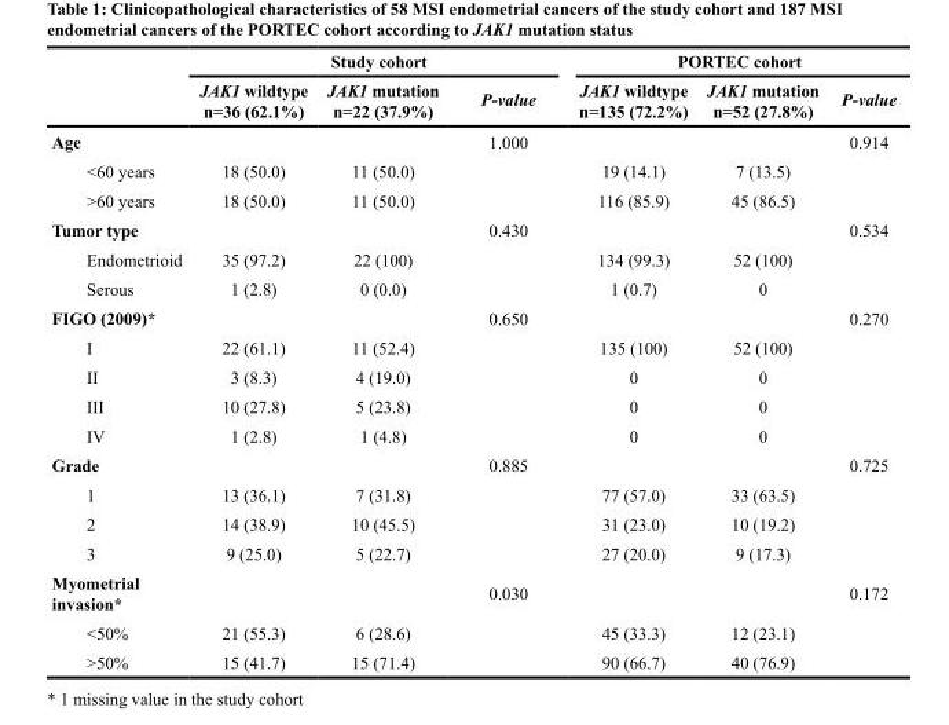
<table><thead><tr><td rowspan="2"></td><td colspan="3">Study cohort</td><td colspan="3">PORTEC cohort</td></tr><tr><td>JAK1 wildtype n=36 (62.1%)</td><td>JAK1 mutation n=22 (37.9%)</td><td>P-value</td><td>JAK1 wildtype n=135 (72.2%)</td><td>JAK1 mutation n=52 (27.8%)</td><td>P-value</td></tr></thead><tbody><tr><td>Age</td><td></td><td></td><td>1.000</td><td></td><td></td><td>0.914</td></tr><tr><td>&lt;60 years</td><td>18 (50.0)</td><td>11 (50.0)</td><td></td><td>19 (14.1)</td><td>7 (13.5)</td><td></td></tr><tr><td>&gt;60 years</td><td>18 (50.0)</td><td>11 (50.0)</td><td></td><td>116 (85.9)</td><td>45 (86.5)</td><td></td></tr><tr><td>Tumor type</td><td></td><td></td><td>0.430</td><td></td><td></td><td>0.534</td></tr><tr><td>Endometrioid</td><td>35 (97.2)</td><td>22 (100)</td><td></td><td>134 (99.3)</td><td>52 (100)</td><td></td></tr><tr><td>Serous</td><td>1 (2.8)</td><td>0 (0.0)</td><td></td><td>1 (0.7)</td><td>0</td><td></td></tr><tr><td>FIGO (2009)*</td><td></td><td></td><td>0.650</td><td></td><td></td><td>0.270</td></tr><tr><td>I</td><td>22 (61.1)</td><td>11 (52.4)</td><td></td><td>135 (100)</td><td>52 (100)</td><td></td></tr><tr><td>II</td><td>3 (8.3)</td><td>4 (19.0)</td><td></td><td>0</td><td>0</td><td></td></tr><tr><td>III</td><td>10 (27.8)</td><td>5 (23.8)</td><td></td><td>0</td><td>0</td><td></td></tr><tr><td>IV</td><td>1 (2.8)</td><td>1 (4.8)</td><td></td><td>0</td><td>0</td><td></td></tr><tr><td>Grade</td><td></td><td></td><td>0.885</td><td></td><td></td><td>0.725</td></tr><tr><td>1</td><td>13 (36.1)</td><td>7 (31.8)</td><td></td><td>77 (57.0)</td><td>33 (63.5)</td><td></td></tr><tr><td>2</td><td>14 (38.9)</td><td>10 (45.5)</td><td></td><td>31 (23.0)</td><td>10 (19.2)</td><td></td></tr><tr><td>3</td><td>9 (25.0)</td><td>5 (22.7)</td><td></td><td>27 (20.0)</td><td>9 (17.3)</td><td></td></tr><tr><td>Myometrial invasion*</td><td></td><td></td><td>0.030</td><td></td><td></td><td>0.172</td></tr><tr><td>&lt;50%</td><td>21 (55.3)</td><td>6 (28.6)</td><td></td><td>45 (33.3)</td><td>12 (23.1)</td><td></td></tr><tr><td>&gt;50%</td><td>15 (41.7)</td><td>15 (71.4)</td><td></td><td>90 (66.7)</td><td>40 (76.9)</td><td></td></tr></tbody></table>